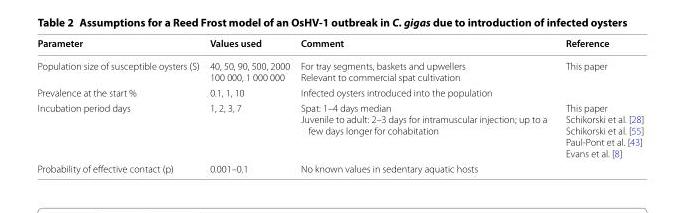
<table><thead><tr><td>Parameter</td><td>Values used</td><td>Comment</td><td>Reference</td></tr></thead><tbody><tr><td>Population size of susceptible oysters (S)</td><td>40, 50, 90, 500, 2000 100 000, 1 000 000</td><td>For tray segments, baskets and upwellers Relevant to commercial spat cultivation</td><td>This paper</td></tr><tr><td>Prevalence at the start %</td><td>0.1, 1, 10</td><td>Infected oysters introduced into the population</td><td></td></tr><tr><td>Incubation period days</td><td>1, 2, 3, 7</td><td>Spat: 1–4 days median Juvenile to adult: 2–3 days for intramuscular injection; up to a few days longer for cohabitation</td><td>This paper Schikorski et al. [28] Schikorski et al. [55] Paul‑Pont et al. [43] Evans et al. [8]</td></tr><tr><td>Probability of effective contact (p)</td><td>0.001–0.1</td><td>No known values in sedentary aquatic hosts</td><td></td></tr></tbody></table>